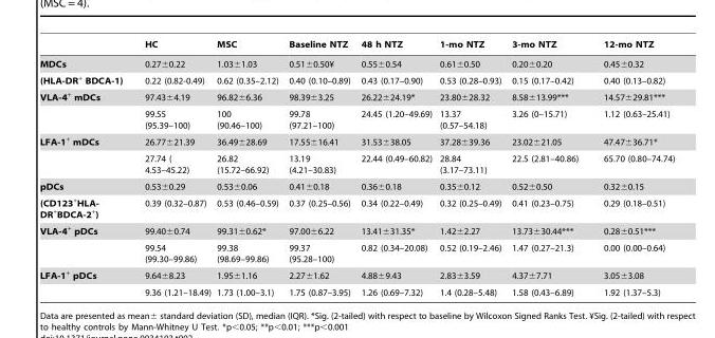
<table><thead><tr><td></td><td>HC</td><td>MSC</td><td>Baseline NTZ</td><td>48 h NTZ</td><td>1-mo NTZ</td><td>3-mo NTZ</td><td>12-mo NTZ</td></tr></thead><tbody><tr><td>MDCs</td><td>0.27±0.22</td><td>1.03±1.03</td><td>0.51±0.50¥</td><td>0.55±0.54</td><td>0.61±0.50</td><td>0.20±0.20</td><td>0.45±0.32</td></tr><tr><td>(HLA-DR<sup>+</sup> BDCA-1)</td><td>0.22 (0.82-0.49)</td><td>0.62 (0.35–2.12)</td><td>0.40 (0.10–0.89)</td><td>0.43 (0.17–0.90)</td><td>0.53 (0.28–0.93)</td><td>0.15 (0.17–0.42)</td><td>0.40 (0.13–0.82)</td></tr><tr><td rowspan="2">VLA-4<sup>+</sup> mDCs</td><td>97.43±4.19</td><td>96.82±6.36</td><td>98.39±3.25</td><td>26.22±24.19*</td><td>23.80±28.32</td><td>8.58±13.99***</td><td>14.57±29.81***</td></tr><tr><td>99.55 (95.39–100)</td><td>100 (90.46–100)</td><td>99.78 (97.21–100)</td><td>24.45 (1.20–49.69)</td><td>13.37 (0.57–54.18)</td><td>3.26 (0–15.71)</td><td>1.12 (0.63–25.41)</td></tr><tr><td rowspan="2">LFA-1<sup>+</sup> mDCs</td><td>26.77±21.39</td><td>36.49±28.69</td><td>17.55±16.41</td><td>31.53±38.05</td><td>37.28±39.36</td><td>23.02±21.05</td><td>47.47±36.71*</td></tr><tr><td>27.74 ( 4.53–45.22)</td><td>26.82 (15.72–66.92)</td><td>13.19 (4.21–30.83)</td><td>22.44 (0.49–60.82)</td><td>28.84 (3.17–73.11)</td><td>22.5 (2.81–40.86)</td><td>65.70 (0.80–74.74)</td></tr><tr><td>pDCs</td><td>0.53±0.29</td><td>0.53±0.06</td><td>0.41±0.18</td><td>0.36±0.18</td><td>0.35±0.12</td><td>0.52±0.50</td><td>0.32±0.15</td></tr><tr><td>(CD123<sup>+</sup>HLA- DR<sup>+</sup>BDCA-2<sup>+</sup>)</td><td>0.39 (0.32–0.87)</td><td>0.53 (0.46–0.59)</td><td>0.37 (0.25–0.56)</td><td>0.34 (0.22–0.49)</td><td>0.32 (0.25–0.49)</td><td>0.41 (0.23–0.75)</td><td>0.29 (0.18–0.51)</td></tr><tr><td rowspan="2">VLA-4<sup>+</sup> pDCs</td><td>99.40±0.74</td><td>99.31±0.62*</td><td>97.00±6.22</td><td>13.41±31.35*</td><td>1.42±2.27</td><td>13.73±30.44***</td><td>0.28±0.51***</td></tr><tr><td>99.54 (99.30–99.86)</td><td>99.38 (98.69–99.86)</td><td>99.37 (95.28–100)</td><td>0.82 (0.34–20.08)</td><td>0.52 (0.19–2.46)</td><td>1.47 (0.27–21.3)</td><td>0.00 (0.00–0.64)</td></tr><tr><td rowspan="2">LFA-1<sup>+</sup> pDCs</td><td>9.64±8.23</td><td>1.95±1.16</td><td>2.27±1.62</td><td>4.88±9.43</td><td>2.83±3.59</td><td>4.37±7.71</td><td>3.05±3.08</td></tr><tr><td>9.36 (1.21–18.49)</td><td>1.73 (1.00–3.1)</td><td>1.75 (0.87–3.95)</td><td>1.26 (0.69–7.32)</td><td>1.4 (0.28–5.48)</td><td>1.58 (0.43–6.89)</td><td>1.92 (1.37–5.3)</td></tr></tbody></table>